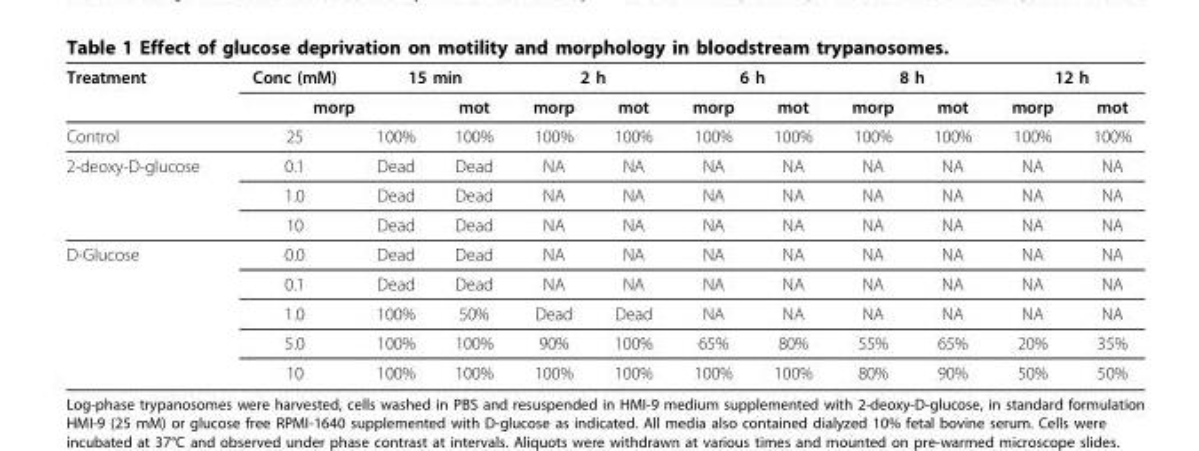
<table><thead><tr><td rowspan="3">Treatment Control</td><td>Conc (mM)</td><td colspan="2">15 min</td><td colspan="2">2 h</td><td colspan="2">6 h</td><td colspan="2">8 h</td><td colspan="2">12 h</td></tr><tr><td colspan="2">morp</td><td rowspan="2">mot 100%</td><td rowspan="2">morp 100%</td><td rowspan="2">mot 100%</td><td rowspan="2">morp 100%</td><td rowspan="2">mot 100%</td><td rowspan="2">morp 100%</td><td rowspan="2">mot 100%</td><td rowspan="2">morp 100%</td><td rowspan="2">mot 100%</td></tr><tr><td>25</td><td>100%</td></tr></thead><tbody><tr><td rowspan="3">2-deoxy-D-glucose</td><td>0.1</td><td>Dead</td><td>Dead</td><td>NA</td><td>NA</td><td>NA</td><td>NA</td><td>NA</td><td>NA</td><td>NA</td><td>NA</td></tr><tr><td>1.0</td><td>Dead</td><td>Dead</td><td>NA</td><td>NA</td><td>NA</td><td>NA</td><td>NA</td><td>NA</td><td>NA</td><td>NA</td></tr><tr><td>10</td><td>Dead</td><td>Dead</td><td>NA</td><td>NA</td><td>NA</td><td>NA</td><td>NA</td><td>NA</td><td>NA</td><td>NA</td></tr><tr><td rowspan="5">D-Glucose</td><td>0.0</td><td>Dead</td><td>Dead</td><td>NA</td><td>NA</td><td>NA</td><td>NA</td><td>NA</td><td>NA</td><td>NA</td><td>NA</td></tr><tr><td>0.1</td><td>Dead</td><td>Dead</td><td>NA</td><td>NA</td><td>NA</td><td>NA</td><td>NA</td><td>NA</td><td>NA</td><td>NA</td></tr><tr><td>1.0</td><td>100%</td><td>50%</td><td>Dead</td><td>Dead</td><td>NA</td><td>NA</td><td>NA</td><td>NA</td><td>NA</td><td>NA</td></tr><tr><td>5.0</td><td>100%</td><td>100%</td><td>90%</td><td>100%</td><td>65%</td><td>80%</td><td>55%</td><td>65%</td><td>20%</td><td>35%</td></tr><tr><td>10</td><td>100%</td><td>100%</td><td>100%</td><td>100%</td><td>100%</td><td>100%</td><td>80%</td><td>90%</td><td>50%</td><td>50%</td></tr></tbody></table>